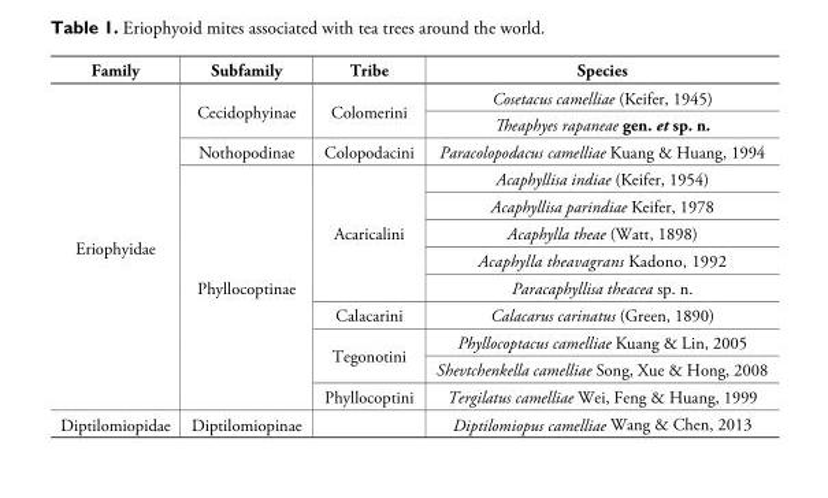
<table><thead><tr><td>Family</td><td>Subfamily</td><td>Tribe</td><td>Species</td></tr></thead><tbody><tr><td rowspan="12">Eriophyidae</td><td rowspan="2">Cecidophyinae</td><td rowspan="2">Colomerini</td><td>Cosetacus camelliae (Keifer, 1945)</td></tr><tr><td>Theaphyes rapaneae gen. et sp. n.</td></tr><tr><td>Nothopodinae</td><td>Colopodacini</td><td>Paracolopodacus camelliae Kuang &amp; Huang, 1994</td></tr><tr><td rowspan="9">Phyllocoptinae</td><td rowspan="5">Acaricalini</td><td>Acaphyllisa indiae (Keifer, 1954)</td></tr><tr><td>Acaphyllisa parindiae Keifer, 1978</td></tr><tr><td>Acaphylla theae (Watt, 1898)</td></tr><tr><td>Acaphylla theavagrans Kadono, 1992</td></tr><tr><td>Paracaphyllisa theacea sp. n.</td></tr><tr><td>Calacarini</td><td>Calacarus carinatus (Green, 1890)</td></tr><tr><td rowspan="2">Tegonotini</td><td>Phyllocoptacus camelliae Kuang &amp; Lin, 2005</td></tr><tr><td>Shevtchenkella camelliae Song, Xue &amp; Hong, 2008</td></tr><tr><td>Phyllocoptini</td><td>Tergilatus camelliae Wei, Feng &amp; Huang, 1999</td></tr><tr><td>Diptilomiopidae</td><td>Diptilomiopinae</td><td></td><td>Diptilomiopus camelliae Wang &amp; Chen, 2013</td></tr></tbody></table>